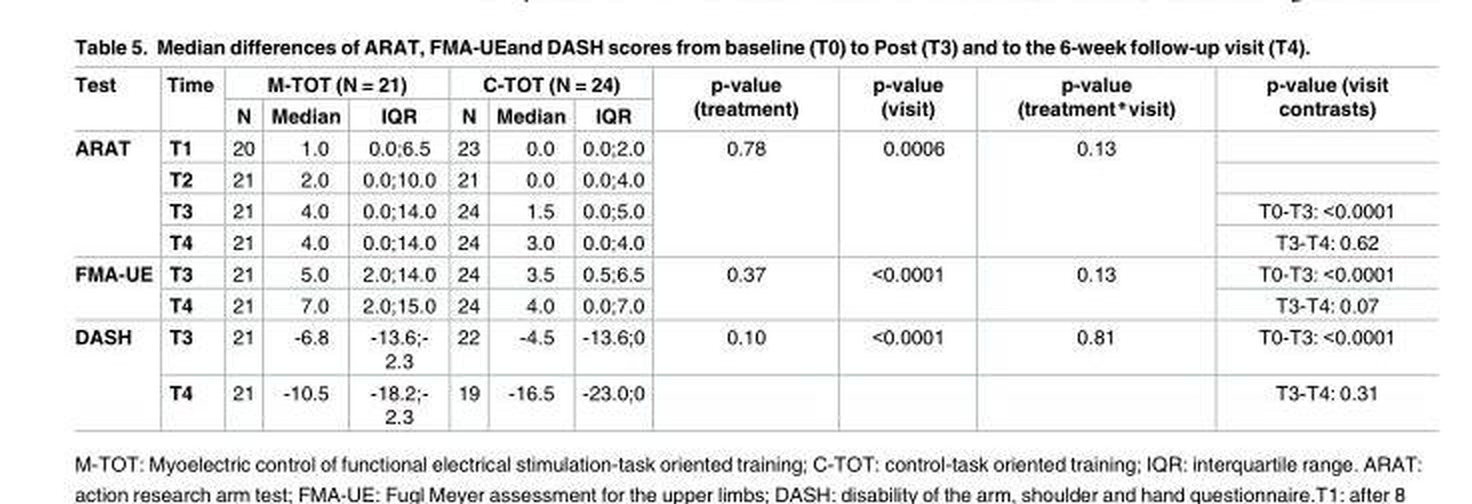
<table><thead><tr><td rowspan="2">Test</td><td rowspan="2">Time</td><td colspan="3">M-TOT (N = 21)</td><td colspan="3">C-TOT (N = 24)</td><td rowspan="2">p-value (treatment)</td><td rowspan="2">p-value (visit)</td><td rowspan="2">p-value (treatment*visit)</td><td rowspan="2">p-value (visit contrasts)</td></tr><tr><td>N</td><td>Median</td><td>IQR</td><td>N</td><td>Median</td><td>IQR</td></tr></thead><tbody><tr><td rowspan="4">ARAT</td><td>T1</td><td>20</td><td>1.0</td><td>0.0;6.5</td><td>23</td><td>0.0</td><td>0.0;2.0</td><td rowspan="4">0.78</td><td rowspan="4">0.0006</td><td rowspan="4">0.13</td><td></td></tr><tr><td>T2</td><td>21</td><td>2.0</td><td>0.0;10.0</td><td>21</td><td>0.0</td><td>0.0;4.0</td><td></td></tr><tr><td>T3</td><td>21</td><td>4.0</td><td>0.0;14.0</td><td>24</td><td>1.5</td><td>0.0;5.0</td><td>T0-T3: &lt;0.0001</td></tr><tr><td>T4</td><td>21</td><td>4.0</td><td>0.0;14.0</td><td>24</td><td>3.0</td><td>0.0;4.0</td><td>T3-T4: 0.62</td></tr><tr><td rowspan="2">FMA-UE</td><td>T3</td><td>21</td><td>5.0</td><td>2.0;14.0</td><td>24</td><td>3.5</td><td>0.5;6.5</td><td rowspan="2">0.37</td><td rowspan="2">&lt;0.0001</td><td rowspan="2">0.13</td><td>T0-T3: &lt;0.0001</td></tr><tr><td>T4</td><td>21</td><td>7.0</td><td>2.0;15.0</td><td>24</td><td>4.0</td><td>0.0;7.0</td><td>T3-T4: 0.07</td></tr><tr><td rowspan="2">DASH</td><td>T3</td><td>21</td><td>-6.8</td><td>-13.6;- 2.3</td><td>22</td><td>-4.5</td><td>-13.6;0</td><td>0.10</td><td>&lt;0.0001</td><td>0.81</td><td>T0-T3: &lt;0.0001</td></tr><tr><td>T4</td><td>21</td><td>-10.5</td><td>-18.2;- 2.3</td><td>19</td><td>-16.5</td><td>-23.0;0</td><td></td><td></td><td></td><td>T3-T4: 0.31</td></tr></tbody></table>